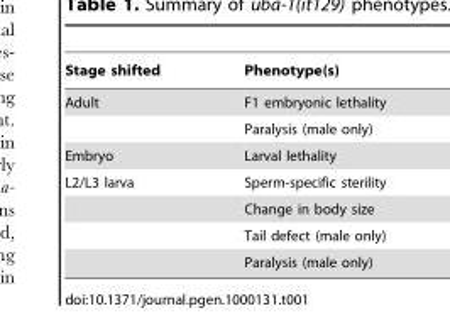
<table><thead><tr><td>Stage shifted</td><td>Phenotype(s)</td></tr></thead><tbody><tr><td rowspan="2">Adult</td><td>F1 embryonic lethality</td></tr><tr><td>Paralysis (male only)</td></tr><tr><td>Embryo</td><td>Larval lethality</td></tr><tr><td rowspan="4">L2/L3 larva</td><td>Sperm-specific sterility</td></tr><tr><td>Change in body size</td></tr><tr><td>Tail defect (male only)</td></tr><tr><td>Paralysis (male only)</td></tr></tbody></table>